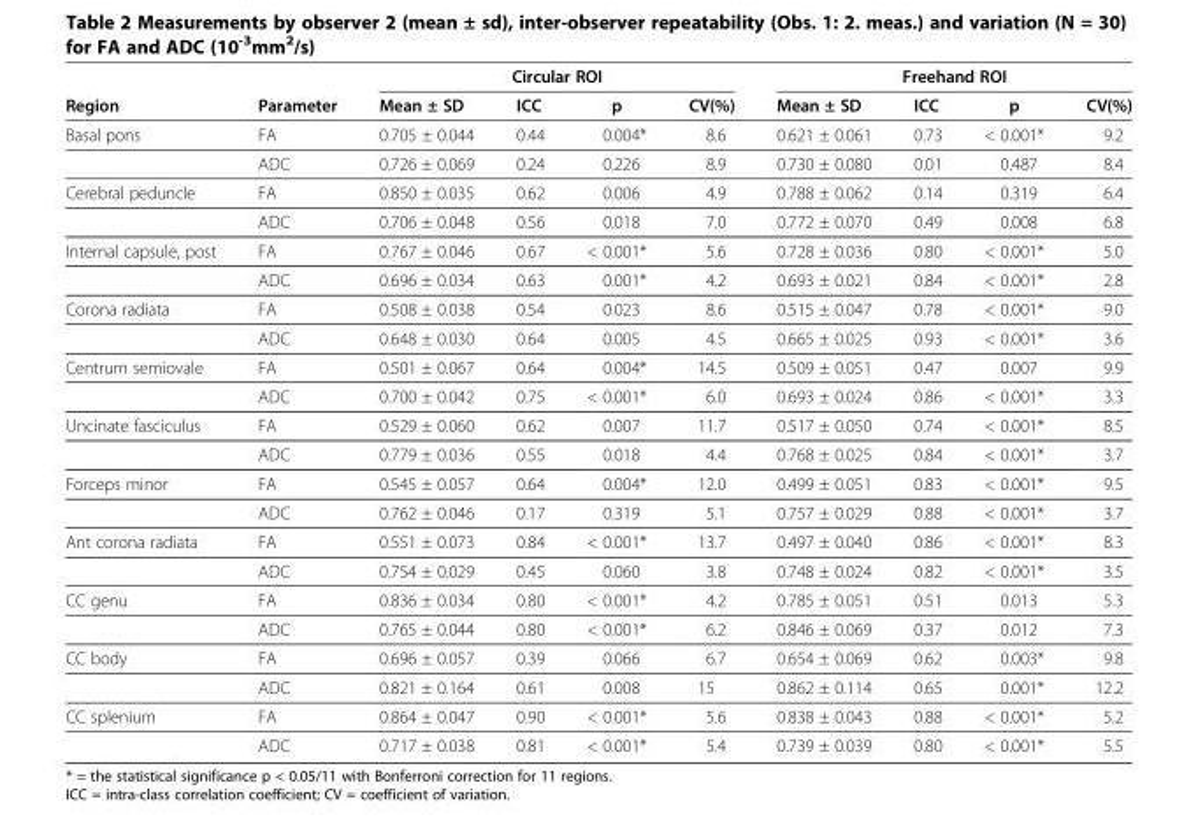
<table><thead><tr><td rowspan="2">Region</td><td rowspan="2">Parameter</td><td colspan="4">Circular ROI</td><td colspan="4">Freehand ROI</td></tr><tr><td>Mean ± SD</td><td>ICC</td><td>p</td><td>CV(%)</td><td>Mean ± SD</td><td>ICC</td><td>p</td><td>CV(%)</td></tr></thead><tbody><tr><td rowspan="2">Basal pons</td><td>FA</td><td>0.705 ± 0.044</td><td>0.44</td><td>0.004*</td><td>8.6</td><td>0.621 ± 0.061</td><td>0.73</td><td>&lt; 0.001*</td><td>9.2</td></tr><tr><td>ADC</td><td>0.726 ± 0.069</td><td>0.24</td><td>0.226</td><td>8.9</td><td>0.730 ± 0.080</td><td>0.01</td><td>0.487</td><td>8.4</td></tr><tr><td rowspan="2">Cerebral peduncle</td><td>FA</td><td>0.850 ± 0.035</td><td>0.62</td><td>0.006</td><td>4.9</td><td>0.788 ± 0.062</td><td>0.14</td><td>0.319</td><td>6.4</td></tr><tr><td>ADC</td><td>0.706 ± 0.048</td><td>0.56</td><td>0.018</td><td>7.0</td><td>0.772 ± 0.070</td><td>0.49</td><td>0.008</td><td>6.8</td></tr><tr><td rowspan="2">Internal capsule, post</td><td>FA</td><td>0.767 ± 0.046</td><td>0.67</td><td>&lt; 0.001*</td><td>5.6</td><td>0.728 ± 0.036</td><td>0.80</td><td>&lt; 0.001*</td><td>5.0</td></tr><tr><td>ADC</td><td>0.696 ± 0.034</td><td>0.63</td><td>0.001*</td><td>4.2</td><td>0.693 ± 0.021</td><td>0.84</td><td>&lt; 0.001*</td><td>2.8</td></tr><tr><td rowspan="2">Corona radiata</td><td>FA</td><td>0.508 ± 0.038</td><td>0.54</td><td>0.023</td><td>8.6</td><td>0.515 ± 0.047</td><td>0.78</td><td>&lt; 0.001*</td><td>9.0</td></tr><tr><td>ADC</td><td>0.648 ± 0.030</td><td>0.64</td><td>0.005</td><td>4.5</td><td>0.665 ± 0.025</td><td>0.93</td><td>&lt; 0.001*</td><td>3.6</td></tr><tr><td rowspan="2">Centrum semiovale</td><td>FA</td><td>0.501 ± 0.067</td><td>0.64</td><td>0.004*</td><td>14.5</td><td>0.509 ± 0.051</td><td>0.47</td><td>0.007</td><td>9.9</td></tr><tr><td>ADC</td><td>0.700 ± 0.042</td><td>0.75</td><td>&lt; 0.001*</td><td>6.0</td><td>0.693 ± 0.024</td><td>0.86</td><td>&lt; 0.001*</td><td>3.3</td></tr><tr><td rowspan="2">Uncinate fasciculus</td><td>FA</td><td>0.529 ± 0.060</td><td>0.62</td><td>0.007</td><td>11.7</td><td>0.517 ± 0.050</td><td>0.74</td><td>&lt; 0.001*</td><td>8.5</td></tr><tr><td>ADC</td><td>0.779 ± 0.036</td><td>0.55</td><td>0.018</td><td>4.4</td><td>0.768 ± 0.025</td><td>0.84</td><td>&lt; 0.001*</td><td>3.7</td></tr><tr><td rowspan="2">Forceps minor</td><td>FA</td><td>0.545 ± 0.057</td><td>0.64</td><td>0.004*</td><td>12.0</td><td>0.499 ± 0.051</td><td>0.83</td><td>&lt; 0.001*</td><td>9.5</td></tr><tr><td>ADC</td><td>0.762 ± 0.046</td><td>0.17</td><td>0.319</td><td>5.1</td><td>0.757 ± 0.029</td><td>0.88</td><td>&lt; 0.001*</td><td>3.7</td></tr><tr><td rowspan="2">Ant corona radiata</td><td>FA</td><td>0.551 ± 0.073</td><td>0.84</td><td>&lt; 0.001*</td><td>13.7</td><td>0.497 ± 0.040</td><td>0.86</td><td>&lt; 0.001*</td><td>8.3</td></tr><tr><td>ADC</td><td>0.754 ± 0.029</td><td>0.45</td><td>0.060</td><td>3.8</td><td>0.748 ± 0.024</td><td>0.82</td><td>&lt; 0.001*</td><td>3.5</td></tr><tr><td rowspan="2">CC genu</td><td>FA</td><td>0.836 ± 0.034</td><td>0.80</td><td>&lt; 0.001*</td><td>4.2</td><td>0.785 ± 0.051</td><td>0.51</td><td>0.013</td><td>5.3</td></tr><tr><td>ADC</td><td>0.765 ± 0.044</td><td>0.80</td><td>&lt; 0.001*</td><td>6.2</td><td>0.846 ± 0.069</td><td>0.37</td><td>0.012</td><td>7.3</td></tr><tr><td rowspan="2">CC body</td><td>FA</td><td>0.696 ± 0.057</td><td>0.39</td><td>0.066</td><td>6.7</td><td>0.654 ± 0.069</td><td>0.62</td><td>0.003*</td><td>9.8</td></tr><tr><td>ADC</td><td>0.821 ± 0.164</td><td>0.61</td><td>0.008</td><td>15</td><td>0.862 ± 0.114</td><td>0.65</td><td>0.001*</td><td>12.2</td></tr><tr><td rowspan="2">CC splenium</td><td>FA</td><td>0.864 ± 0.047</td><td>0.90</td><td>&lt; 0.001*</td><td>5.6</td><td>0.838 ± 0.043</td><td>0.88</td><td>&lt; 0.001*</td><td>5.2</td></tr><tr><td>ADC</td><td>0.717 ± 0.038</td><td>0.81</td><td>&lt; 0.001*</td><td>5.4</td><td>0.739 ± 0.039</td><td>0.80</td><td>&lt; 0.001*</td><td>5.5</td></tr></tbody></table>